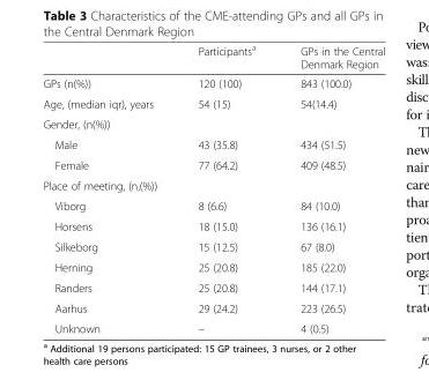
<table><thead><tr><td></td><td>Participants<sup>a</sup></td><td>GPs in the Central Denmark Region</td></tr></thead><tbody><tr><td>GPs (n(%))</td><td>120 (100)</td><td>843 (100.0)</td></tr><tr><td>Age, (median iqr), years</td><td>54 (15)</td><td>54(14.4)</td></tr><tr><td colspan="3">Gender, (n(%))</td></tr><tr><td>Male</td><td>43 (35.8)</td><td>434 (51.5)</td></tr><tr><td>Female</td><td>77 (64.2)</td><td>409 (48.5)</td></tr><tr><td colspan="3">Place of meeting, (n,(%))</td></tr><tr><td>Viborg</td><td>8 (6.6)</td><td>84 (10.0)</td></tr><tr><td>Horsens</td><td>18 (15.0)</td><td>136 (16.1)</td></tr><tr><td>Silkeborg</td><td>15 (12.5)</td><td>67 (8.0)</td></tr><tr><td>Herning</td><td>25 (20.8)</td><td>185 (22.0)</td></tr><tr><td>Randers</td><td>25 (20.8)</td><td>144 (17.1)</td></tr><tr><td>Aarhus</td><td>29 (24.2)</td><td>223 (26.5)</td></tr><tr><td>Unknown</td><td>–</td><td>4 (0.5)</td></tr></tbody></table>